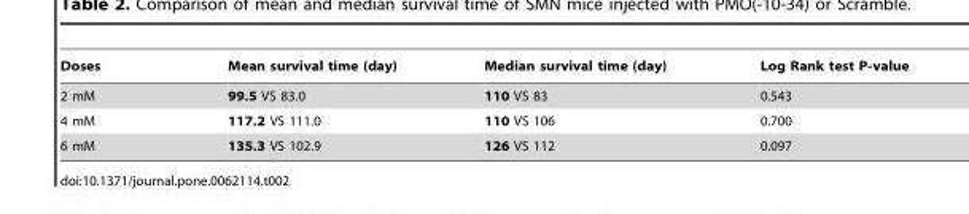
<table><thead><tr><td>Doses</td><td>Mean survival time (day)</td><td>Median survival time (day)</td><td>Log Rank test P-value</td></tr></thead><tbody><tr><td>2 mM</td><td>99.5 VS 83.0</td><td>110 VS 83</td><td>0.543</td></tr><tr><td>4 mM</td><td>117.2 VS 111.0</td><td>110 VS 106</td><td>0.700</td></tr><tr><td>6 mM</td><td>135.3 VS 102.9</td><td>126 VS 112</td><td>0.097</td></tr></tbody></table>